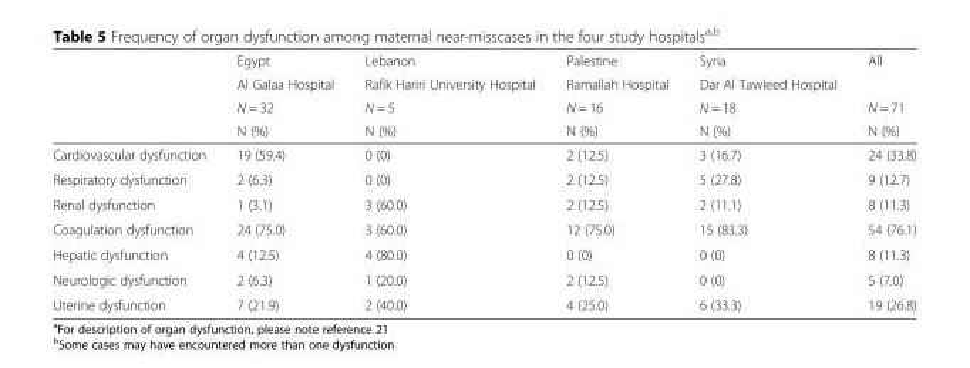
<table><thead><tr><td rowspan="4"></td><td rowspan="4">Egypt Al Galaa Hospital N = 32 N (%)</td><td rowspan="4">Lebanon Rafik Hariri University Hospital N = 5 N (%)</td><td rowspan="4">Palestine Ramallah Hospital N = 16 N (%)</td><td rowspan="4">Syria Dar Al Tawleed Hospital N = 18 N (%)</td><td rowspan="4">All N = 71 N (%)</td></tr><tr></tr><tr></tr><tr></tr></thead><tbody><tr><td>Cardiovascular dysfunction</td><td>19 (59.4)</td><td>0 (0)</td><td>2 (12.5)</td><td>3 (16.7)</td><td>24 (33.8)</td></tr><tr><td>Respiratory dysfunction</td><td>2 (6.3)</td><td>0 (0)</td><td>2 (12.5)</td><td>5 (27.8)</td><td>9 (12.7)</td></tr><tr><td>Renal dysfunction</td><td>1 (3.1)</td><td>3 (60.0)</td><td>2 (12.5)</td><td>2 (11.1)</td><td>8 (11.3)</td></tr><tr><td>Coagulation dysfunction</td><td>24 (75.0)</td><td>3 (60.0)</td><td>12 (75.0)</td><td>15 (83.3)</td><td>54 (76.1)</td></tr><tr><td>Hepatic dysfunction</td><td>4 (12.5)</td><td>4 (80.0)</td><td>0 (0)</td><td>0 (0)</td><td>8 (11.3)</td></tr><tr><td>Neurologic dysfunction</td><td>2 (6.3)</td><td>1 (20.0)</td><td>2 (12.5)</td><td>0 (0)</td><td>5 (7.0)</td></tr><tr><td>Uterine dysfunction</td><td>7 (21.9)</td><td>2 (40.0)</td><td>4 (25.0)</td><td>6 (33.3)</td><td>19 (26.8)</td></tr></tbody></table>